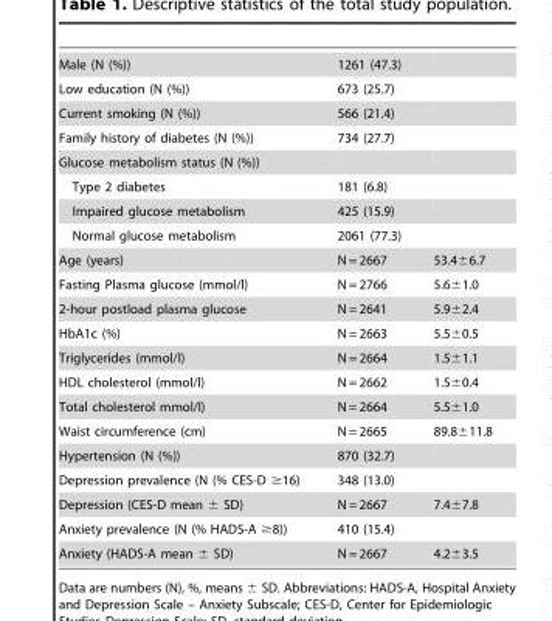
<table><tbody><tr><td>Male (N (%))</td><td>1261 (47.3)</td><td></td></tr><tr><td>Low education (N (%))</td><td>673 (25.7)</td><td></td></tr><tr><td>Current smoking (N (%))</td><td>566 (21.4)</td><td></td></tr><tr><td>Family history of diabetes (N (%))</td><td>734 (27.7)</td><td></td></tr><tr><td colspan="3">Glucose metabolism status (N (%))</td></tr><tr><td>Type 2 diabetes</td><td>181 (6.8)</td><td></td></tr><tr><td>Impaired glucose metabolism</td><td>425 (15.9)</td><td></td></tr><tr><td>Normal glucose metabolism</td><td>2061 (77.3)</td><td></td></tr><tr><td>Age (years)</td><td>N = 2667</td><td>53.4±6.7</td></tr><tr><td>Fasting Plasma glucose (mmol/l)</td><td>N = 2766</td><td>5.6±1.0</td></tr><tr><td>2-hour postload plasma glucose</td><td>N = 2641</td><td>5.9±2.4</td></tr><tr><td>HbA1c (%)</td><td>N = 2663</td><td>5.5±0.5</td></tr><tr><td>Triglycerides (mmol/l)</td><td>N = 2664</td><td>1.5±1.1</td></tr><tr><td>HDL cholesterol (mmol/l)</td><td>N = 2662</td><td>1.5±0.4</td></tr><tr><td>Total cholesterol mmol/l)</td><td>N = 2664</td><td>5.5±1.0</td></tr><tr><td>Waist circumference (cm)</td><td>N = 2665</td><td>89.8±11.8</td></tr><tr><td>Hypertension (N (%))</td><td>870 (32.7)</td><td></td></tr><tr><td>Depression prevalence (N (% CES-D ≥16)</td><td>348 (13.0)</td><td></td></tr><tr><td>Depression (CES-D mean ± SD)</td><td>N = 2667</td><td>7.4±7.8</td></tr><tr><td>Anxiety prevalence (N (% HADS-A ≥8))</td><td>410 (15.4)</td><td></td></tr><tr><td>Anxiety (HADS-A mean ± SD)</td><td>N = 2667</td><td>4.2±3.5</td></tr></tbody></table>